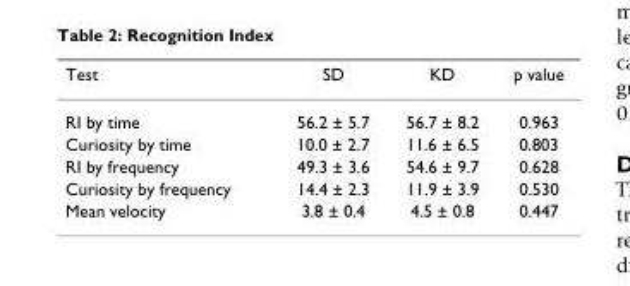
<table><thead><tr><td>Test</td><td>SD</td><td>KD</td><td>p value</td></tr></thead><tbody><tr><td>RI by time</td><td>56.2 ± 5.7</td><td>56.7 ± 8.2</td><td>0.963</td></tr><tr><td>Curiosity by time</td><td>10.0 ± 2.7</td><td>11.6 ± 6.5</td><td>0.803</td></tr><tr><td>RI by frequency</td><td>49.3 ± 3.6</td><td>54.6 ± 9.7</td><td>0.628</td></tr><tr><td>Curiosity by frequency</td><td>14.4 ± 2.3</td><td>11.9 ± 3.9</td><td>0.530</td></tr><tr><td>Mean velocity</td><td>3.8 ± 0.4</td><td>4.5 ± 0.8</td><td>0.447</td></tr></tbody></table>